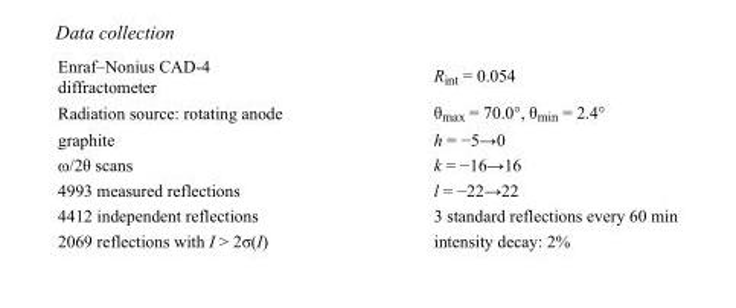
<table><tbody><tr><td>Enraf–Nonius CAD-4 diffractometer</td><td>R<sub>int</sub> = 0.054</td></tr><tr><td>Radiation source: rotating anode</td><td>θ<sub>max</sub> = 70.0°, θ<sub>min</sub> = 2.4°</td></tr><tr><td>graphite</td><td>h = −5→0</td></tr><tr><td>ω/2θ scans</td><td>k = −16→16</td></tr><tr><td>4993 measured reflections</td><td>l = −22→22</td></tr><tr><td>4412 independent reflections</td><td>3 standard reflections every 60 min</td></tr><tr><td>2069 reflections with I &gt; 2σ(I)</td><td>intensity decay: 2%</td></tr></tbody></table>